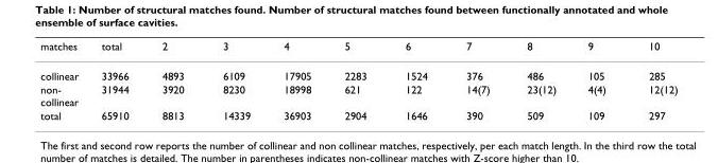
<table><thead><tr><td>matches</td><td>total</td><td>2</td><td>3</td><td>4</td><td>5</td><td>6</td><td>7</td><td>8</td><td>9</td><td>10</td></tr></thead><tbody><tr><td>collinear</td><td>33966</td><td>4893</td><td>6109</td><td>17905</td><td>2283</td><td>1524</td><td>376</td><td>486</td><td>105</td><td>285</td></tr><tr><td>non- collinear</td><td>31944</td><td>3920</td><td>8230</td><td>18998</td><td>621</td><td>122</td><td>14(7)</td><td>23(12)</td><td>4(4)</td><td>12(12)</td></tr><tr><td>total</td><td>65910</td><td>8813</td><td>14339</td><td>36903</td><td>2904</td><td>1646</td><td>390</td><td>509</td><td>109</td><td>297</td></tr></tbody></table>